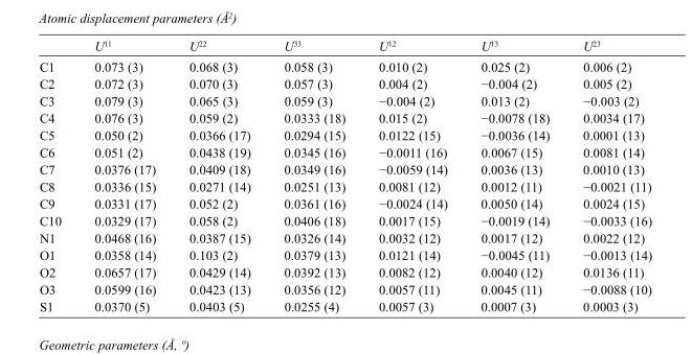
<table><thead><tr><td></td><td>U<sup>11</sup></td><td>U<sup>22</sup></td><td>U<sup>33</sup></td><td>U<sup>12</sup></td><td>U<sup>13</sup></td><td>U<sup>23</sup></td></tr></thead><tbody><tr><td>C1</td><td>0.073 (3)</td><td>0.068 (3)</td><td>0.058 (3)</td><td>0.010 (2)</td><td>0.025 (2)</td><td>0.006 (2)</td></tr><tr><td>C2</td><td>0.072 (3)</td><td>0.070 (3)</td><td>0.057 (3)</td><td>0.004 (2)</td><td>−0.004 (2)</td><td>0.005 (2)</td></tr><tr><td>C3</td><td>0.079 (3)</td><td>0.065 (3)</td><td>0.059 (3)</td><td>−0.004 (2)</td><td>0.013 (2)</td><td>−0.003 (2)</td></tr><tr><td>C4</td><td>0.076 (3)</td><td>0.059 (2)</td><td>0.0333 (18)</td><td>0.015 (2)</td><td>−0.0078 (18)</td><td>0.0034 (17)</td></tr><tr><td>C5</td><td>0.050 (2)</td><td>0.0366 (17)</td><td>0.0294 (15)</td><td>0.0122 (15)</td><td>−0.0036 (14)</td><td>0.0001 (13)</td></tr><tr><td>C6</td><td>0.051 (2)</td><td>0.0438 (19)</td><td>0.0345 (16)</td><td>−0.0011 (16)</td><td>0.0067 (15)</td><td>0.0081 (14)</td></tr><tr><td>C7</td><td>0.0376 (17)</td><td>0.0409 (18)</td><td>0.0349 (16)</td><td>−0.0059 (14)</td><td>0.0036 (13)</td><td>0.0010 (13)</td></tr><tr><td>C8</td><td>0.0336 (15)</td><td>0.0271 (14)</td><td>0.0251 (13)</td><td>0.0081 (12)</td><td>0.0012 (11)</td><td>−0.0021 (11)</td></tr><tr><td>C9</td><td>0.0331 (17)</td><td>0.052 (2)</td><td>0.0361 (16)</td><td>−0.0024 (14)</td><td>0.0050 (14)</td><td>0.0024 (15)</td></tr><tr><td>C10</td><td>0.0329 (17)</td><td>0.058 (2)</td><td>0.0406 (18)</td><td>0.0017 (15)</td><td>−0.0019 (14)</td><td>−0.0033 (16)</td></tr><tr><td>N1</td><td>0.0468 (16)</td><td>0.0387 (15)</td><td>0.0326 (14)</td><td>0.0032 (12)</td><td>0.0017 (12)</td><td>0.0022 (12)</td></tr><tr><td>O1</td><td>0.0358 (14)</td><td>0.103 (2)</td><td>0.0379 (13)</td><td>0.0121 (14)</td><td>−0.0045 (11)</td><td>−0.0013 (14)</td></tr><tr><td>O2</td><td>0.0657 (17)</td><td>0.0429 (14)</td><td>0.0392 (13)</td><td>0.0082 (12)</td><td>0.0040 (12)</td><td>0.0136 (11)</td></tr><tr><td>O3</td><td>0.0599 (16)</td><td>0.0423 (13)</td><td>0.0356 (12)</td><td>0.0057 (11)</td><td>0.0045 (11)</td><td>−0.0088 (10)</td></tr><tr><td>S1</td><td>0.0370 (5)</td><td>0.0403 (5)</td><td>0.0255 (4)</td><td>0.0057 (3)</td><td>0.0007 (3)</td><td>0.0003 (3)</td></tr></tbody></table>